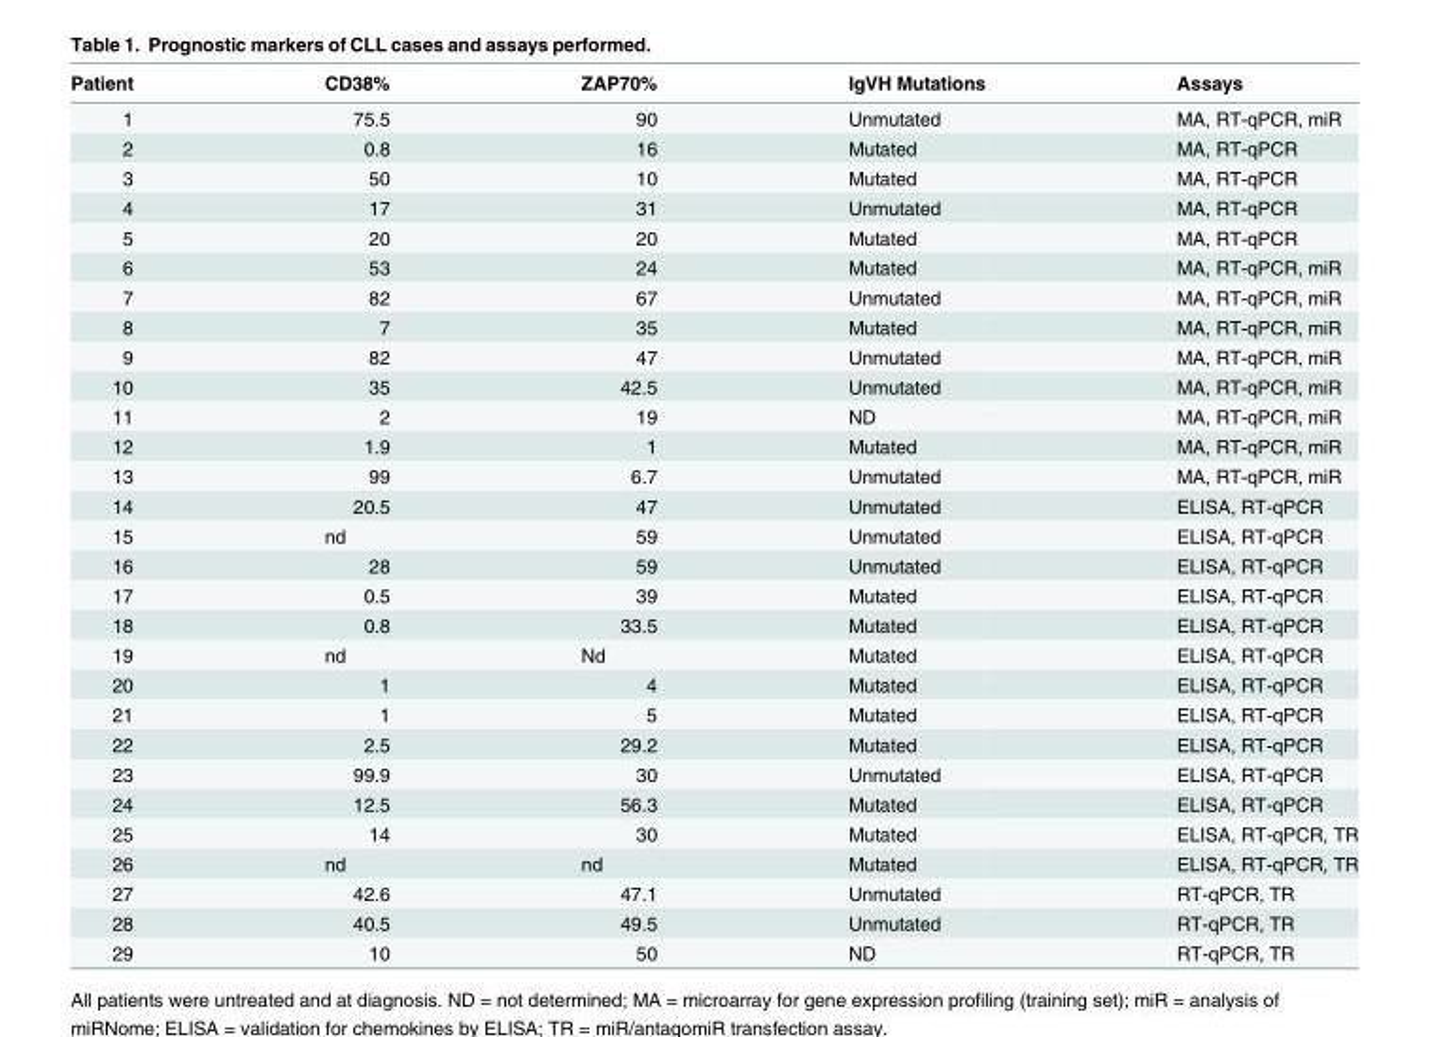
<table><thead><tr><td>Patient</td><td>CD38%</td><td>ZAP70%</td><td>IgVH Mutations</td><td>Assays</td></tr></thead><tbody><tr><td>1</td><td>75.5</td><td>90</td><td>Unmutated</td><td>MA, RT-qPCR, miR</td></tr><tr><td>2</td><td>0.8</td><td>16</td><td>Mutated</td><td>MA, RT-qPCR</td></tr><tr><td>3</td><td>50</td><td>10</td><td>Mutated</td><td>MA, RT-qPCR</td></tr><tr><td>4</td><td>17</td><td>31</td><td>Unmutated</td><td>MA, RT-qPCR</td></tr><tr><td>5</td><td>20</td><td>20</td><td>Mutated</td><td>MA, RT-qPCR</td></tr><tr><td>6</td><td>53</td><td>24</td><td>Mutated</td><td>MA, RT-qPCR, miR</td></tr><tr><td>7</td><td>82</td><td>67</td><td>Unmutated</td><td>MA, RT-qPCR, miR</td></tr><tr><td>8</td><td>7</td><td>35</td><td>Mutated</td><td>MA, RT-qPCR, miR</td></tr><tr><td>9</td><td>82</td><td>47</td><td>Unmutated</td><td>MA, RT-qPCR, miR</td></tr><tr><td>10</td><td>35</td><td>42.5</td><td>Unmutated</td><td>MA, RT-qPCR, miR</td></tr><tr><td>11</td><td>2</td><td>19</td><td>ND</td><td>MA, RT-qPCR, miR</td></tr><tr><td>12</td><td>1.9</td><td>1</td><td>Mutated</td><td>MA, RT-qPCR, miR</td></tr><tr><td>13</td><td>99</td><td>6.7</td><td>Unmutated</td><td>MA, RT-qPCR, miR</td></tr><tr><td>14</td><td>20.5</td><td>47</td><td>Unmutated</td><td>ELISA, RT-qPCR</td></tr><tr><td>15</td><td>nd</td><td>59</td><td>Unmutated</td><td>ELISA, RT-qPCR</td></tr><tr><td>16</td><td>28</td><td>59</td><td>Unmutated</td><td>ELISA, RT-qPCR</td></tr><tr><td>17</td><td>0.5</td><td>39</td><td>Mutated</td><td>ELISA, RT-qPCR</td></tr><tr><td>18</td><td>0.8</td><td>33.5</td><td>Mutated</td><td>ELISA, RT-qPCR</td></tr><tr><td>19</td><td>nd</td><td>Nd</td><td>Mutated</td><td>ELISA, RT-qPCR</td></tr><tr><td>20</td><td>1</td><td>4</td><td>Mutated</td><td>ELISA, RT-qPCR</td></tr><tr><td>21</td><td>1</td><td>5</td><td>Mutated</td><td>ELISA, RT-qPCR</td></tr><tr><td>22</td><td>2.5</td><td>29.2</td><td>Mutated</td><td>ELISA, RT-qPCR</td></tr><tr><td>23</td><td>99.9</td><td>30</td><td>Unmutated</td><td>ELISA, RT-qPCR</td></tr><tr><td>24</td><td>12.5</td><td>56.3</td><td>Mutated</td><td>ELISA, RT-qPCR</td></tr><tr><td>25</td><td>14</td><td>30</td><td>Mutated</td><td>ELISA, RT-qPCR, TR</td></tr><tr><td>26</td><td>nd</td><td>nd</td><td>Mutated</td><td>ELISA, RT-qPCR, TR</td></tr><tr><td>27</td><td>42.6</td><td>47.1</td><td>Unmutated</td><td>RT-qPCR, TR</td></tr><tr><td>28</td><td>40.5</td><td>49.5</td><td>Unmutated</td><td>RT-qPCR, TR</td></tr><tr><td>29</td><td>10</td><td>50</td><td>ND</td><td>RT-qPCR, TR</td></tr></tbody></table>